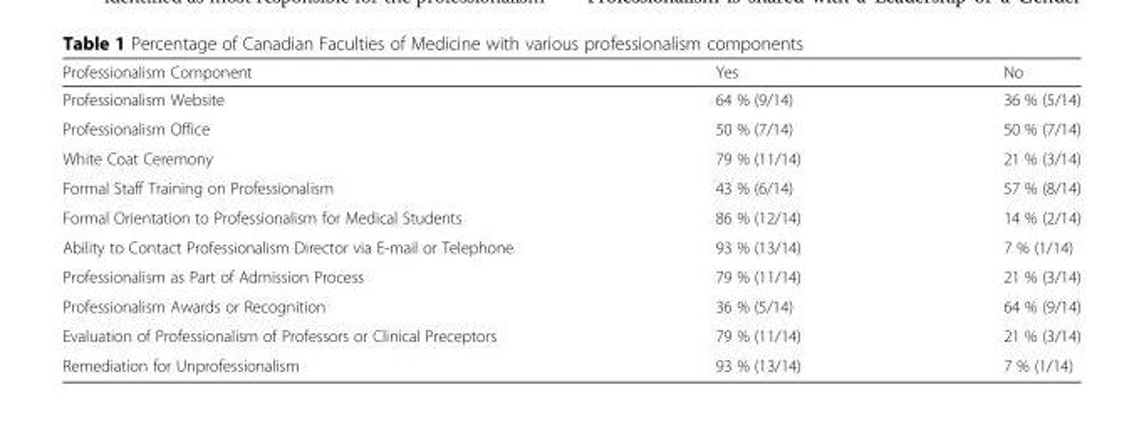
<table><thead><tr><td>Professionalism Component</td><td>Yes</td><td>No</td></tr></thead><tbody><tr><td>Professionalism Website</td><td>64 % (9/14)</td><td>36 % (5/14)</td></tr><tr><td>Professionalism Office</td><td>50 % (7/14)</td><td>50 % (7/14)</td></tr><tr><td>White Coat Ceremony</td><td>79 % (11/14)</td><td>21 % (3/14)</td></tr><tr><td>Formal Staff Training on Professionalism</td><td>43 % (6/14)</td><td>57 % (8/14)</td></tr><tr><td>Formal Orientation to Professionalism for Medical Students</td><td>86 % (12/14)</td><td>14 % (2/14)</td></tr><tr><td>Ability to Contact Professionalism Director via E-mail or Telephone</td><td>93 % (13/14)</td><td>7 % (1/14)</td></tr><tr><td>Professionalism as Part of Admission Process</td><td>79 % (11/14)</td><td>21 % (3/14)</td></tr><tr><td>Professionalism Awards or Recognition</td><td>36 % (5/14)</td><td>64 % (9/14)</td></tr><tr><td>Evaluation of Professionalism of Professors or Clinical Preceptors</td><td>79 % (11/14)</td><td>21 % (3/14)</td></tr><tr><td>Remediation for Unprofessionalism</td><td>93 % (13/14)</td><td>7 % (1/14)</td></tr></tbody></table>